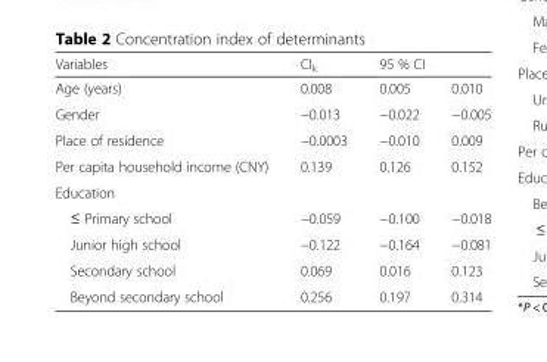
<table><thead><tr><td rowspan="2">Variables Age (years)</td><td rowspan="2">CI<sub>k</sub> 0.008</td><td colspan="2">95 % CI</td></tr><tr><td>0.005</td><td>0.010</td></tr></thead><tbody><tr><td>Gender</td><td>−0.013</td><td>−0.022</td><td>−0.005</td></tr><tr><td>Place of residence</td><td>−0.0003</td><td>−0.010</td><td>0.009</td></tr><tr><td>Per capita household income (CNY)</td><td>0.139</td><td>0.126</td><td>0.152</td></tr><tr><td colspan="4">Education</td></tr><tr><td>≤ Primary school</td><td>−0.059</td><td>−0.100</td><td>−0.018</td></tr><tr><td>Junior high school</td><td>−0.122</td><td>−0.164</td><td>−0.081</td></tr><tr><td>Secondary school</td><td>0.069</td><td>0.016</td><td>0.123</td></tr><tr><td>Beyond secondary school</td><td>0.256</td><td>0.197</td><td>0.314</td></tr></tbody></table>